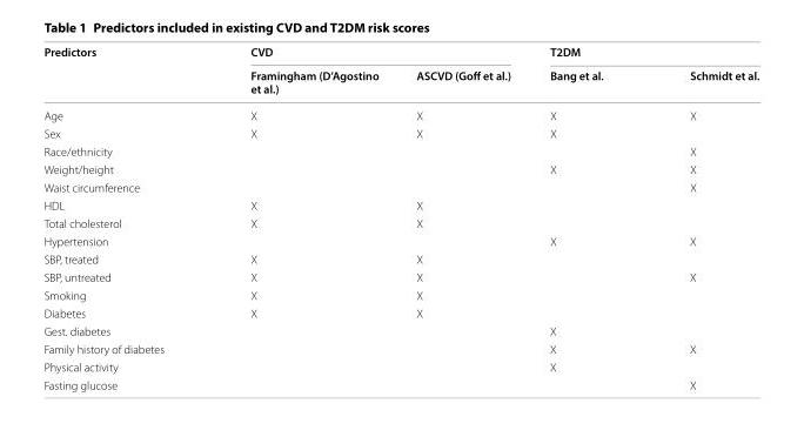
<table><thead><tr><td rowspan="2">Predictors</td><td colspan="2">CVD</td><td colspan="2">T2DM</td></tr><tr><td>Framingham (D’Agostino et al.)</td><td>ASCVD (Goff et al.)</td><td>Bang et al.</td><td>Schmidt et al.</td></tr></thead><tbody><tr><td>Age</td><td>X</td><td>X</td><td>X</td><td>X</td></tr><tr><td>Sex</td><td>X</td><td>X</td><td>X</td><td></td></tr><tr><td>Race/ethnicity</td><td></td><td></td><td></td><td>X</td></tr><tr><td>Weight/height</td><td></td><td></td><td>X</td><td>X</td></tr><tr><td>Waist circumference</td><td></td><td></td><td></td><td>X</td></tr><tr><td>HDL</td><td>X</td><td>X</td><td></td><td></td></tr><tr><td>Total cholesterol</td><td>X</td><td>X</td><td></td><td></td></tr><tr><td>Hypertension</td><td></td><td></td><td>X</td><td>X</td></tr><tr><td>SBP, treated</td><td>X</td><td>X</td><td></td><td></td></tr><tr><td>SBP, untreated</td><td>X</td><td>X</td><td></td><td>X</td></tr><tr><td>Smoking</td><td>X</td><td>X</td><td></td><td></td></tr><tr><td>Diabetes</td><td>X</td><td>X</td><td></td><td></td></tr><tr><td>Gest. diabetes</td><td></td><td></td><td>X</td><td></td></tr><tr><td>Family history of diabetes</td><td></td><td></td><td>X</td><td>X</td></tr><tr><td>Physical activity</td><td></td><td></td><td>X</td><td></td></tr><tr><td>Fasting glucose</td><td></td><td></td><td></td><td>X</td></tr></tbody></table>